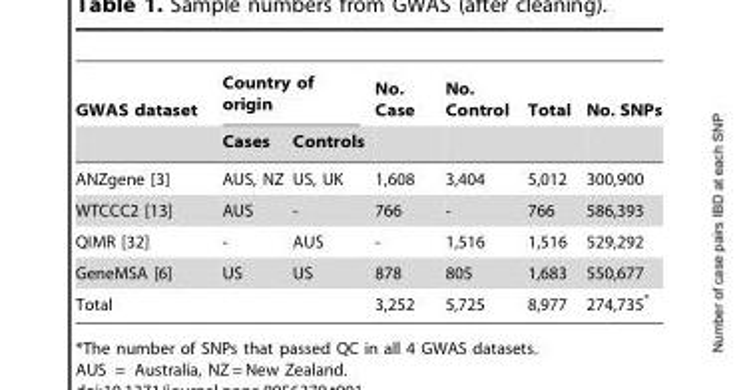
<table><thead><tr><td rowspan="2">GWAS dataset</td><td colspan="2">Country of origin</td><td rowspan="2">No. Case</td><td rowspan="2">No. Control</td><td rowspan="2">Total</td><td rowspan="2">No. SNPs</td></tr><tr><td>Cases</td><td>Controls</td></tr></thead><tbody><tr><td>ANZgene [3]</td><td>AUS, NZ</td><td>US, UK</td><td>1,608</td><td>3,404</td><td>5,012</td><td>300,900</td></tr><tr><td>WTCCC2 [13]</td><td>AUS</td><td>-</td><td>766</td><td>-</td><td>766</td><td>586,393</td></tr><tr><td>QIMR [32]</td><td>-</td><td>AUS</td><td>-</td><td>1,516</td><td>1,516</td><td>529,292</td></tr><tr><td>GeneMSA [6]</td><td>US</td><td>US</td><td>878</td><td>805</td><td>1,683</td><td>550,677</td></tr><tr><td>Total</td><td></td><td></td><td>3,252</td><td>5,725</td><td>8,977</td><td>274,735*</td></tr></tbody></table>